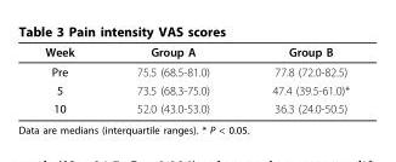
<table><thead><tr><td>Week</td><td>Group A</td><td>Group B</td></tr></thead><tbody><tr><td>Pre</td><td>75.5 (68.5-81.0)</td><td>77.8 (72.0-82.5)</td></tr><tr><td>5</td><td>73.5 (68.3-75.0)</td><td>47.4 (39.5-61.0)*</td></tr><tr><td>10</td><td>52.0 (43.0-53.0)</td><td>36.3 (24.0-50.5)</td></tr></tbody></table>